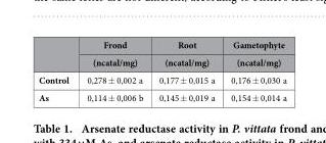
<table><thead><tr><td rowspan="2"></td><td rowspan="2">Frond (ncatal/mg)</td><td rowspan="2">Root (ncatal/mg)</td><td rowspan="2">Gametophyte (ncatal/mg)</td></tr><tr></tr></thead><tbody><tr><td>Control</td><td>0,278 ± 0,002 a</td><td>0,177 ± 0,015 a</td><td>0,176 ± 0,030 a</td></tr><tr><td>As</td><td>0,114 ± 0,006 b</td><td>0,145 ± 0,019 a</td><td>0,154 ± 0,014 a</td></tr></tbody></table>